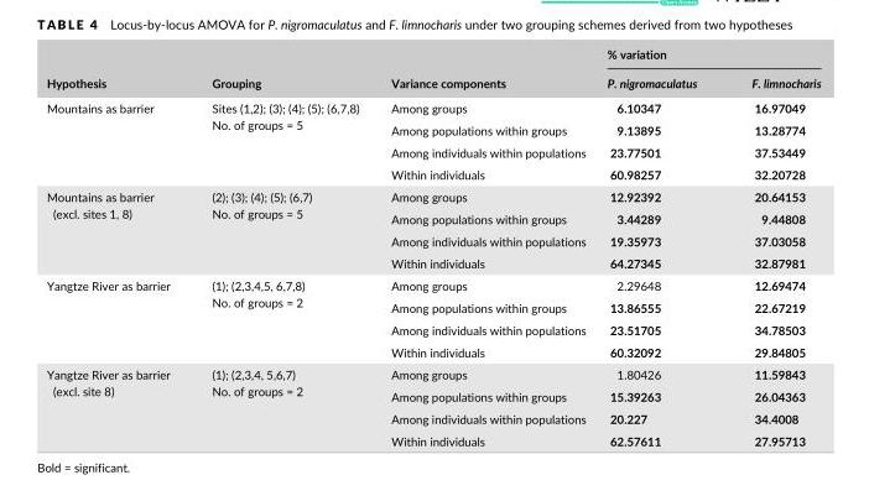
<table><thead><tr><td rowspan="2">Hypothesis</td><td rowspan="2">Grouping</td><td rowspan="2">Variance components</td><td colspan="2">% variation</td></tr><tr><td>P. nigromaculatus</td><td>F. limnocharis</td></tr></thead><tbody><tr><td rowspan="4">Mountains as barrier</td><td rowspan="4">Sites (1,2); (3); (4); (5); (6,7,8) No. of groups = 5</td><td>Among groups</td><td>6.10347</td><td>16.97049</td></tr><tr><td>Among populations within groups</td><td>9.13895</td><td>13.28774</td></tr><tr><td>Among individuals within populations</td><td>23.77501</td><td>37.53449</td></tr><tr><td>Within individuals</td><td>60.98257</td><td>32.20728</td></tr><tr><td rowspan="4">Mountains as barrier (excl. sites 1, 8)</td><td rowspan="4">(2); (3); (4); (5); (6,7) No. of groups = 5</td><td>Among groups</td><td>12.92392</td><td>20.64153</td></tr><tr><td>Among populations within groups</td><td>3.44289</td><td>9.44808</td></tr><tr><td>Among individuals within populations</td><td>19.35973</td><td>37.03058</td></tr><tr><td>Within individuals</td><td>64.27345</td><td>32.87981</td></tr><tr><td rowspan="4">Yangtze River as barrier</td><td rowspan="4">(1); (2,3,4,5, 6,7,8) No. of groups = 2</td><td>Among groups</td><td>2.29648</td><td>12.69474</td></tr><tr><td>Among populations within groups</td><td>13.86555</td><td>22.67219</td></tr><tr><td>Among individuals within populations</td><td>23.51705</td><td>34.78503</td></tr><tr><td>Within individuals</td><td>60.32092</td><td>29.84805</td></tr><tr><td rowspan="4">Yangtze River as barrier (excl. site 8)</td><td rowspan="4">(1); (2,3,4, 5,6,7) No. of groups = 2</td><td>Among groups</td><td>1.80426</td><td>11.59843</td></tr><tr><td>Among populations within groups</td><td>15.39263</td><td>26.04363</td></tr><tr><td>Among individuals within populations</td><td>20.227</td><td>34.4008</td></tr><tr><td>Within individuals</td><td>62.57611</td><td>27.95713</td></tr></tbody></table>